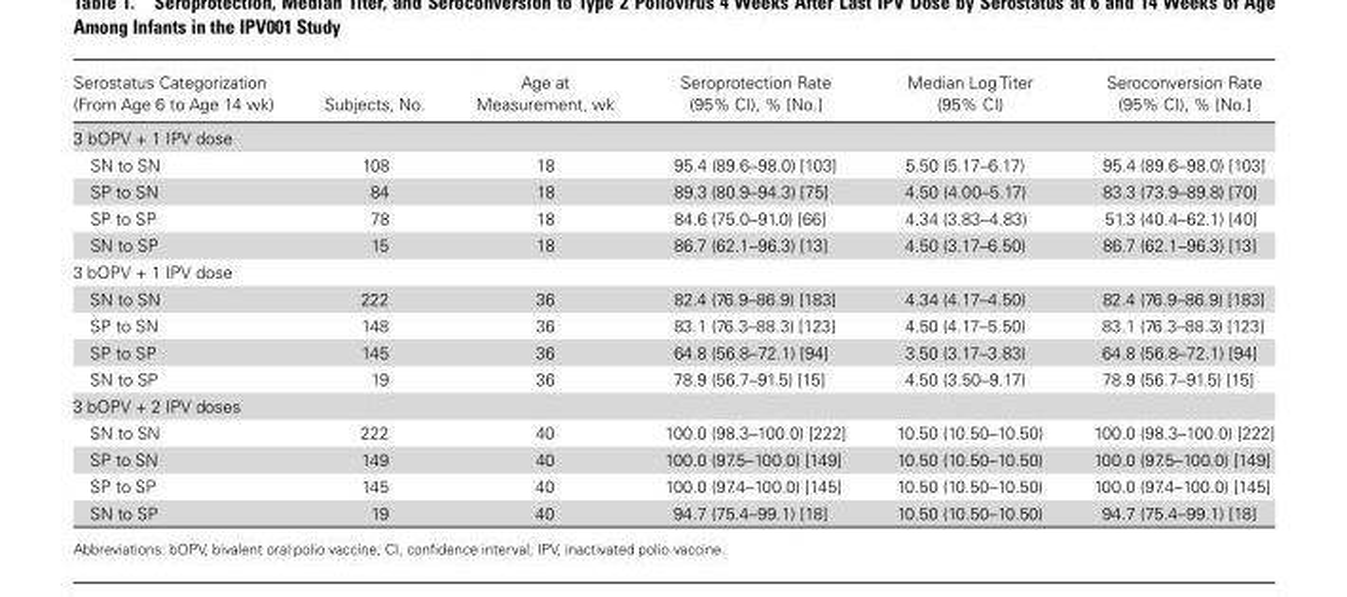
<table><thead><tr><td>Serostatus Categorization (From Age 6 to Age 14 wk)</td><td>Subjects, No.</td><td>Age at Measurement, wk</td><td>Seroprotection Rate (95% CI), % [No.]</td><td>Median Log Titer (95% CI)</td><td>Seroconversion Rate (95% CI), % [No.]</td></tr></thead><tbody><tr><td colspan="6">3 bOPV + 1 IPV dose</td></tr><tr><td>SN to SN</td><td>108</td><td>18</td><td>95.4 (89.6–98.0) [103]</td><td>5.50 (5.17–6.17)</td><td>95.4 (89.6–98.0) [103]</td></tr><tr><td>SP to SN</td><td>84</td><td>18</td><td>89.3 (80.9–94.3) [75]</td><td>4.50 (4.00–5.17)</td><td>83.3 (73.9–89.8) [70]</td></tr><tr><td>SP to SP</td><td>78</td><td>18</td><td>84.6 (75.0–91.0) [66]</td><td>4.34 (3.83–4.83)</td><td>51.3 (40.4–62.1) [40]</td></tr><tr><td>SN to SP</td><td>15</td><td>18</td><td>86.7 (62.1–96.3) [13]</td><td>4.50 (3.17–6.50)</td><td>86.7 (62.1–96.3) [13]</td></tr><tr><td colspan="6">3 bOPV + 1 IPV dose</td></tr><tr><td>SN to SN</td><td>222</td><td>36</td><td>82.4 (76.9–86.9) [183]</td><td>4.34 (4.17–4.50)</td><td>82.4 (76.9–86.9) [183]</td></tr><tr><td>SP to SN</td><td>148</td><td>36</td><td>83.1 (76.3–88.3) [123]</td><td>4.50 (4.17–5.50)</td><td>83.1 (76.3–88.3) [123]</td></tr><tr><td>SP to SP</td><td>145</td><td>36</td><td>64.8 (56.8–72.1) [94]</td><td>3.50 (3.17–3.83)</td><td>64.8 (56.8–72.1) [94]</td></tr><tr><td>SN to SP</td><td>19</td><td>36</td><td>78.9 (56.7–91.5) [15]</td><td>4.50 (3.50–9.17)</td><td>78.9 (56.7–91.5) [15]</td></tr><tr><td colspan="6">3 bOPV + 2 IPV doses</td></tr><tr><td>SN to SN</td><td>222</td><td>40</td><td>100.0 (98.3–100.0) [222]</td><td>10.50 (10.50–10.50)</td><td>100.0 (98.3–100.0) [222]</td></tr><tr><td>SP to SN</td><td>149</td><td>40</td><td>100.0 (97.5–100.0) [149]</td><td>10.50 (10.50–10.50)</td><td>100.0 (97.5–100.0) [149]</td></tr><tr><td>SP to SP</td><td>145</td><td>40</td><td>100.0 (97.4–100.0) [145]</td><td>10.50 (10.50–10.50)</td><td>100.0 (97.4–100.0) [145]</td></tr><tr><td>SN to SP</td><td>19</td><td>40</td><td>94.7 (75.4–99.1) [18]</td><td>10.50 (10.50–10.50)</td><td>94.7 (75.4–99.1) [18]</td></tr></tbody></table>